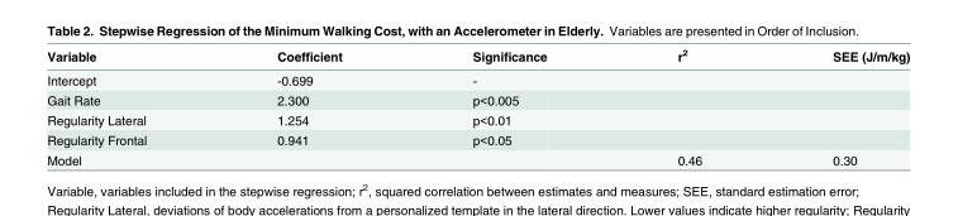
<table><thead><tr><td>Variable</td><td>Coefficient</td><td>Significance</td><td>r<sup>2</sup></td><td>SEE (J/m/kg)</td></tr></thead><tbody><tr><td>Intercept</td><td>-0.699</td><td>-</td><td></td><td></td></tr><tr><td>Gait Rate</td><td>2.300</td><td>p&lt;0.005</td><td></td><td></td></tr><tr><td>Regularity Lateral</td><td>1.254</td><td>p&lt;0.01</td><td></td><td></td></tr><tr><td>Regularity Frontal</td><td>0.941</td><td>p&lt;0.05</td><td></td><td></td></tr><tr><td>Model</td><td></td><td></td><td>0.46</td><td>0.30</td></tr></tbody></table>